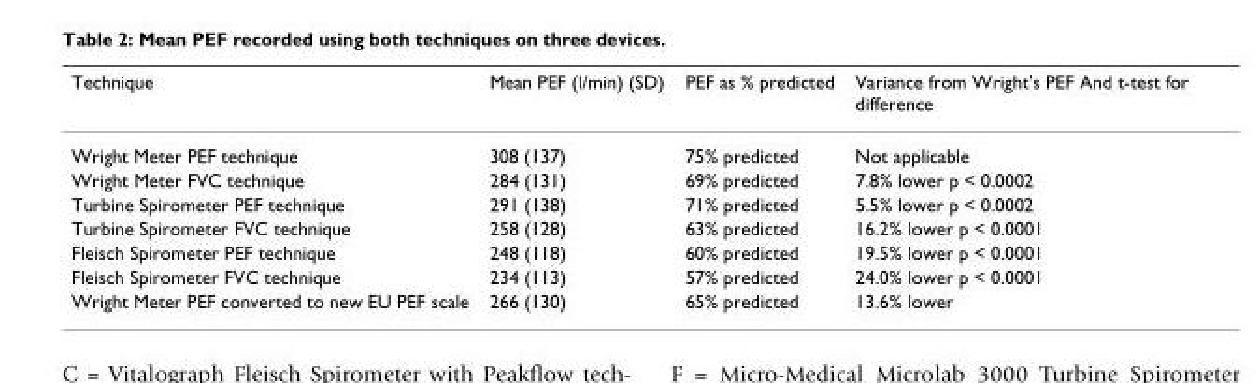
<table><thead><tr><td>Technique</td><td>Mean PEF (l/min) (SD)</td><td>PEF as % predicted</td><td>Variance from Wright&#x27;s PEF And t-test for difference</td></tr></thead><tbody><tr><td>Wright Meter PEF technique</td><td>308 (137)</td><td>75% predicted</td><td>Not applicable</td></tr><tr><td>Wright Meter FVC technique</td><td>284 (131)</td><td>69% predicted</td><td>7.8% lower p &lt; 0.0002</td></tr><tr><td>Turbine Spirometer PEF technique</td><td>291 (138)</td><td>71% predicted</td><td>5.5% lower p &lt; 0.0002</td></tr><tr><td>Turbine Spirometer FVC technique</td><td>258 (128)</td><td>63% predicted</td><td>16.2% lower p &lt; 0.0001</td></tr><tr><td>Fleisch Spirometer PEF technique</td><td>248 (118)</td><td>60% predicted</td><td>19.5% lower p &lt; 0.0001</td></tr><tr><td>Fleisch Spirometer FVC technique</td><td>234 (113)</td><td>57% predicted</td><td>24.0% lower p &lt; 0.0001</td></tr><tr><td>Wright Meter PEF converted to new EU PEF scale</td><td>266 (130)</td><td>65% predicted</td><td>13.6% lower</td></tr></tbody></table>